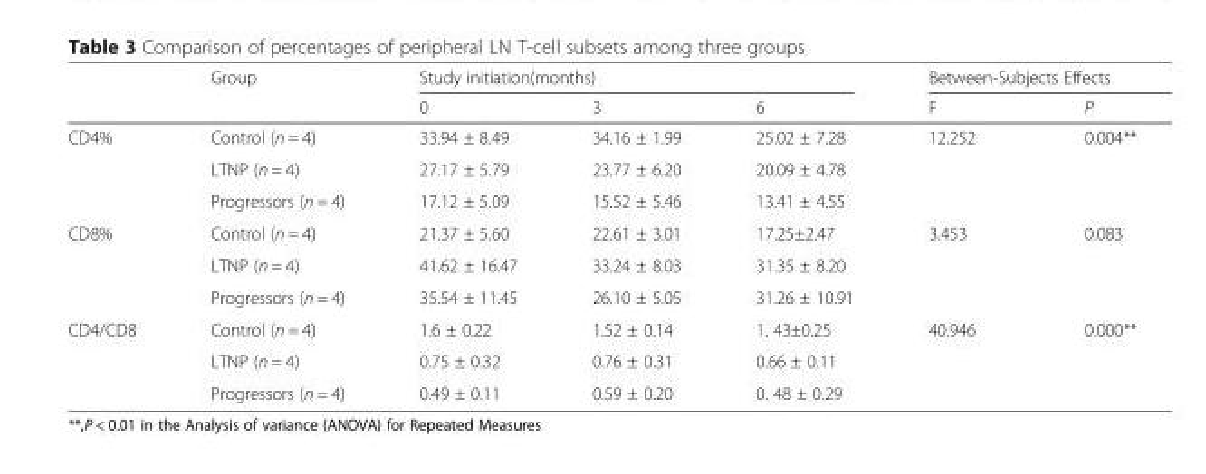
<table><thead><tr><td rowspan="2"></td><td rowspan="2">Group</td><td colspan="3">Study initiation(months)</td><td colspan="2">Between-Subjects Effects</td></tr><tr><td>0</td><td>3</td><td>6</td><td>F</td><td>P</td></tr></thead><tbody><tr><td rowspan="3">CD4%</td><td>Control (n = 4)</td><td>33.94 ± 8.49</td><td>34.16 ± 1.99</td><td>25.02 ± 7.28</td><td rowspan="3">12.252</td><td rowspan="3">0.004**</td></tr><tr><td>LTNP (n = 4)</td><td>27.17 ± 5.79</td><td>23.77 ± 6.20</td><td>20.09 ± 4.78</td></tr><tr><td>Progressors (n = 4)</td><td>17.12 ± 5.09</td><td>15.52 ± 5.46</td><td>13.41 ± 4.55</td></tr><tr><td rowspan="3">CD8%</td><td>Control (n = 4)</td><td>21.37 ± 5.60</td><td>22.61 ± 3.01</td><td>17.25±2.47</td><td rowspan="3">3.453</td><td rowspan="3">0.083</td></tr><tr><td>LTNP (n = 4)</td><td>41.62 ± 16.47</td><td>33.24 ± 8.03</td><td>31.35 ± 8.20</td></tr><tr><td>Progressors (n = 4)</td><td>35.54 ± 11.45</td><td>26.10 ± 5.05</td><td>31.26 ± 10.91</td></tr><tr><td rowspan="3">CD4/CD8</td><td>Control (n = 4)</td><td>1.6 ± 0.22</td><td>1.52 ± 0.14</td><td>1. 43±0.25</td><td rowspan="3">40.946</td><td rowspan="3">0.000**</td></tr><tr><td>LTNP (n = 4)</td><td>0.75 ± 0.32</td><td>0.76 ± 0.31</td><td>0.66 ± 0.11</td></tr><tr><td>Progressors (n = 4)</td><td>0.49 ± 0.11</td><td>0.59 ± 0.20</td><td>0. 48 ± 0.29</td></tr></tbody></table>